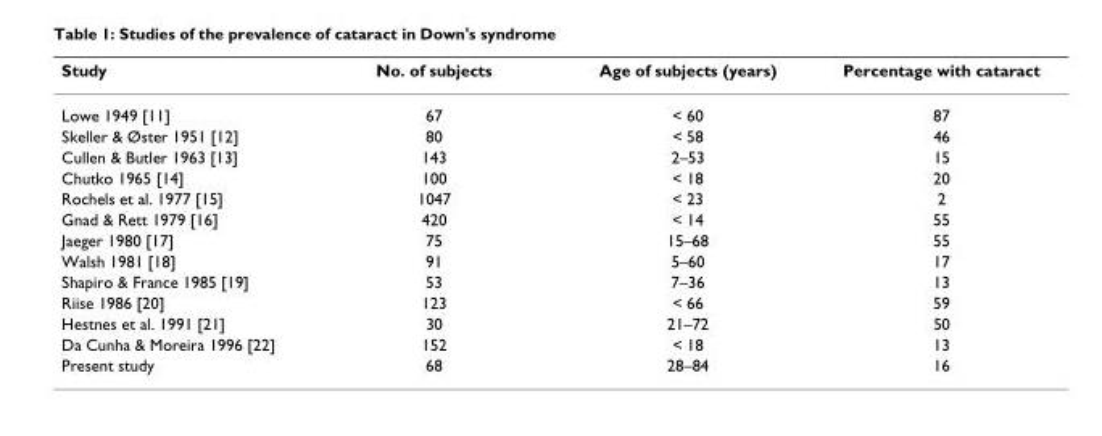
<table><thead><tr><td>Study</td><td>No. of subjects</td><td>Age of subjects (years)</td><td>Percentage with cataract</td></tr></thead><tbody><tr><td>Lowe 1949 [11]</td><td>67</td><td>&lt; 60</td><td>87</td></tr><tr><td>Skeller &amp; Øster 1951 [12]</td><td>80</td><td>&lt; 58</td><td>46</td></tr><tr><td>Cullen &amp; Butler 1963 [13]</td><td>143</td><td>2–53</td><td>15</td></tr><tr><td>Chutko 1965 [14]</td><td>100</td><td>&lt; 18</td><td>20</td></tr><tr><td>Rochels et al. 1977 [15]</td><td>1047</td><td>&lt; 23</td><td>2</td></tr><tr><td>Gnad &amp; Rett 1979 [16]</td><td>420</td><td>&lt; 14</td><td>55</td></tr><tr><td>Jaeger 1980 [17]</td><td>75</td><td>15–68</td><td>55</td></tr><tr><td>Walsh 1981 [18]</td><td>91</td><td>5–60</td><td>17</td></tr><tr><td>Shapiro &amp; France 1985 [19]</td><td>53</td><td>7–36</td><td>13</td></tr><tr><td>Riise 1986 [20]</td><td>123</td><td>&lt; 66</td><td>59</td></tr><tr><td>Hestnes et al. 1991 [21]</td><td>30</td><td>21–72</td><td>50</td></tr><tr><td>Da Cunha &amp; Moreira 1996 [22]</td><td>152</td><td>&lt; 18</td><td>13</td></tr><tr><td>Present study</td><td>68</td><td>28–84</td><td>16</td></tr></tbody></table>